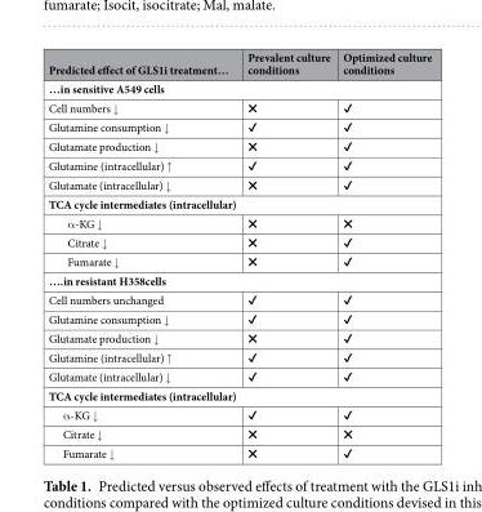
<table><thead><tr><td>Predicted effect of GLS1i treatment…</td><td>Prevalent culture conditions</td><td>Optimized culture conditions</td></tr></thead><tbody><tr><td colspan="3">…in sensitive A549 cells</td></tr><tr><td>Cell numbers ↓</td><td>✖</td><td>✔</td></tr><tr><td>Glutamine consumption ↓</td><td>✔</td><td>✔</td></tr><tr><td>Glutamate production ↓</td><td>✖</td><td>✔</td></tr><tr><td>Glutamine (intracellular) ↑</td><td>✔</td><td>✔</td></tr><tr><td>Glutamate (intracellular) ↓</td><td>✖</td><td>✔</td></tr><tr><td colspan="3">TCA cycle intermediates (intracellular)</td></tr><tr><td>α-KG ↓</td><td>✖</td><td>✖</td></tr><tr><td>Citrate ↓</td><td>✖</td><td>✔</td></tr><tr><td>Fumarate ↓</td><td>✖</td><td>✔</td></tr><tr><td colspan="3">….in resistant H358cells</td></tr><tr><td>Cell numbers unchanged</td><td>✔</td><td>✔</td></tr><tr><td>Glutamine consumption ↓</td><td>✔</td><td>✔</td></tr><tr><td>Glutamate production ↓</td><td>✖</td><td>✔</td></tr><tr><td>Glutamine (intracellular) ↑</td><td>✔</td><td>✔</td></tr><tr><td>Glutamate (intracellular) ↓</td><td>✔</td><td>✔</td></tr><tr><td colspan="3">TCA cycle intermediates (intracellular)</td></tr><tr><td>α-KG ↓</td><td>✔</td><td>✔</td></tr><tr><td>Citrate ↓</td><td>✖</td><td>✖</td></tr><tr><td>Fumarate ↓</td><td>✖</td><td>✔</td></tr></tbody></table>